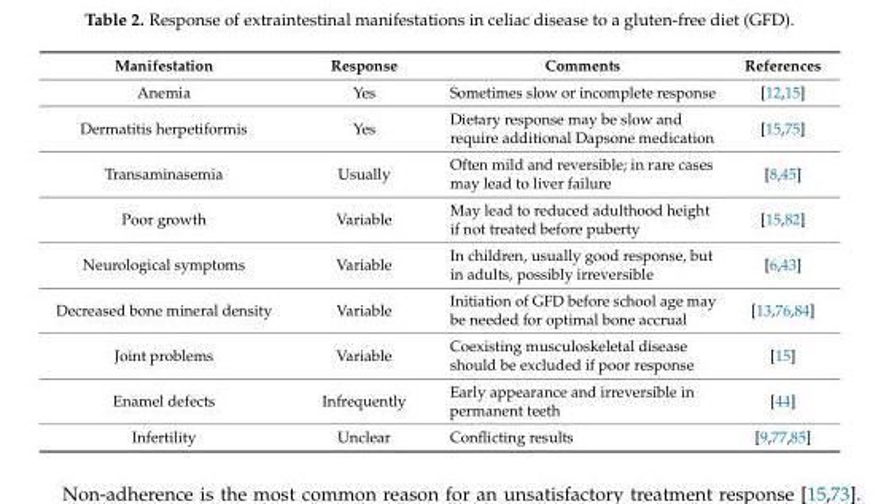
<table><thead><tr><td>Manifestation</td><td>Response</td><td>Comments</td><td>References</td></tr></thead><tbody><tr><td>Anemia</td><td>Yes</td><td>Sometimes slow or incomplete response</td><td>[12,15]</td></tr><tr><td>Dermatitis herpetiformis</td><td>Yes</td><td>Dietary response may be slow and require additional Dapsone medication</td><td>[15,75]</td></tr><tr><td>Transaminasemia</td><td>Usually</td><td>Often mild and reversible; in rare cases may lead to liver failure</td><td>[8,45]</td></tr><tr><td>Poor growth</td><td>Variable</td><td>May lead to reduced adulthood height if not treated before puberty</td><td>[15,82]</td></tr><tr><td>Neurological symptoms</td><td>Variable</td><td>In children, usually good response, but in adults, possibly irreversible</td><td>[6,43]</td></tr><tr><td>Decreased bone mineral density</td><td>Variable</td><td>Initiation of GFD before school age may be needed for optimal bone accrual</td><td>[13,76,84]</td></tr><tr><td>Joint problems</td><td>Variable</td><td>Coexisting musculoskeletal disease should be excluded if poor response</td><td>[15]</td></tr><tr><td>Enamel defects</td><td>Infrequently</td><td>Early appearance and irreversible in permanent teeth</td><td>[44]</td></tr><tr><td>Infertility</td><td>Unclear</td><td>Conflicting results</td><td>[9,77,85]</td></tr></tbody></table>